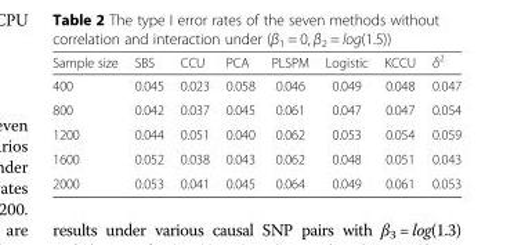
<table><thead><tr><td>Sample size</td><td>SBS</td><td>CCU</td><td>PCA</td><td>PLSPM</td><td>Logistic</td><td>KCCU</td><td>δ<sup>2</sup></td></tr></thead><tbody><tr><td>400</td><td>0.045</td><td>0.023</td><td>0.058</td><td>0.046</td><td>0.049</td><td>0.048</td><td>0.047</td></tr><tr><td>800</td><td>0.042</td><td>0.037</td><td>0.045</td><td>0.061</td><td>0.047</td><td>0.047</td><td>0.054</td></tr><tr><td>1200</td><td>0.044</td><td>0.051</td><td>0.040</td><td>0.062</td><td>0.053</td><td>0.054</td><td>0.059</td></tr><tr><td>1600</td><td>0.052</td><td>0.038</td><td>0.043</td><td>0.062</td><td>0.048</td><td>0.051</td><td>0.043</td></tr><tr><td>2000</td><td>0.053</td><td>0.041</td><td>0.045</td><td>0.064</td><td>0.049</td><td>0.061</td><td>0.053</td></tr></tbody></table>